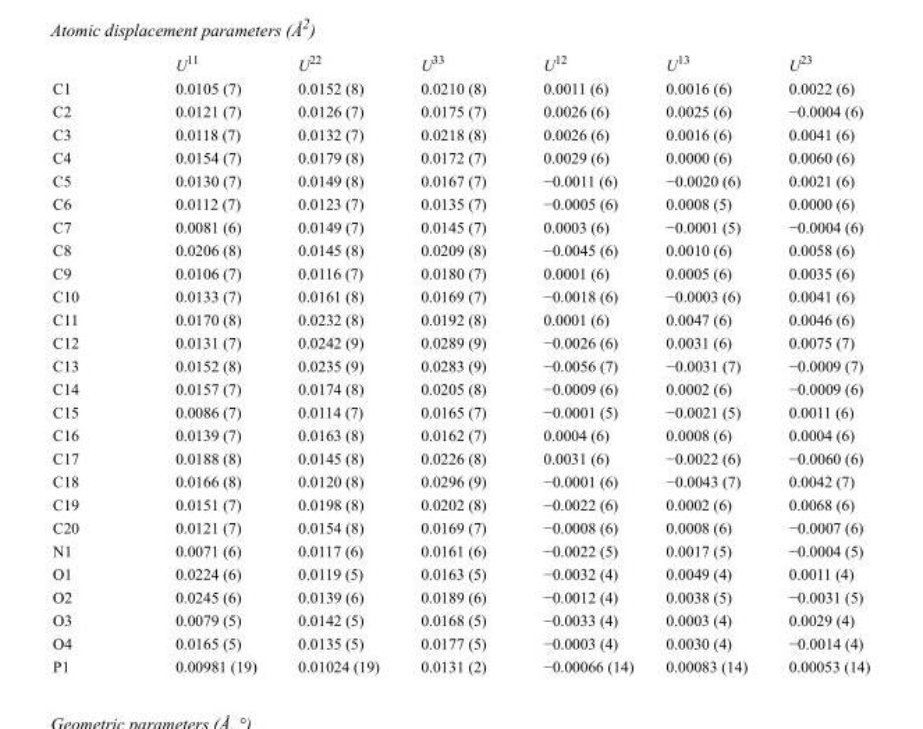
<table><thead><tr><td></td><td>U<sup>11</sup></td><td>U<sup>22</sup></td><td>U<sup>33</sup></td><td>U<sup>12</sup></td><td>U<sup>13</sup></td><td>U<sup>23</sup></td></tr></thead><tbody><tr><td>C1</td><td>0.0105 (7)</td><td>0.0152 (8)</td><td>0.0210 (8)</td><td>0.0011 (6)</td><td>0.0016 (6)</td><td>0.0022 (6)</td></tr><tr><td>C2</td><td>0.0121 (7)</td><td>0.0126 (7)</td><td>0.0175 (7)</td><td>0.0026 (6)</td><td>0.0025 (6)</td><td>−0.0004 (6)</td></tr><tr><td>C3</td><td>0.0118 (7)</td><td>0.0132 (7)</td><td>0.0218 (8)</td><td>0.0026 (6)</td><td>0.0016 (6)</td><td>0.0041 (6)</td></tr><tr><td>C4</td><td>0.0154 (7)</td><td>0.0179 (8)</td><td>0.0172 (7)</td><td>0.0029 (6)</td><td>0.0000 (6)</td><td>0.0060 (6)</td></tr><tr><td>C5</td><td>0.0130 (7)</td><td>0.0149 (8)</td><td>0.0167 (7)</td><td>−0.0011 (6)</td><td>−0.0020 (6)</td><td>0.0021 (6)</td></tr><tr><td>C6</td><td>0.0112 (7)</td><td>0.0123 (7)</td><td>0.0135 (7)</td><td>−0.0005 (6)</td><td>0.0008 (5)</td><td>0.0000 (6)</td></tr><tr><td>C7</td><td>0.0081 (6)</td><td>0.0149 (7)</td><td>0.0145 (7)</td><td>0.0003 (6)</td><td>−0.0001 (5)</td><td>−0.0004 (6)</td></tr><tr><td>C8</td><td>0.0206 (8)</td><td>0.0145 (8)</td><td>0.0209 (8)</td><td>−0.0045 (6)</td><td>0.0010 (6)</td><td>0.0058 (6)</td></tr><tr><td>C9</td><td>0.0106 (7)</td><td>0.0116 (7)</td><td>0.0180 (7)</td><td>0.0001 (6)</td><td>0.0005 (6)</td><td>0.0035 (6)</td></tr><tr><td>C10</td><td>0.0133 (7)</td><td>0.0161 (8)</td><td>0.0169 (7)</td><td>−0.0018 (6)</td><td>−0.0003 (6)</td><td>0.0041 (6)</td></tr><tr><td>C11</td><td>0.0170 (8)</td><td>0.0232 (8)</td><td>0.0192 (8)</td><td>0.0001 (6)</td><td>0.0047 (6)</td><td>0.0046 (6)</td></tr><tr><td>C12</td><td>0.0131 (7)</td><td>0.0242 (9)</td><td>0.0289 (9)</td><td>−0.0026 (6)</td><td>0.0031 (6)</td><td>0.0075 (7)</td></tr><tr><td>C13</td><td>0.0152 (8)</td><td>0.0235 (9)</td><td>0.0283 (9)</td><td>−0.0056 (7)</td><td>−0.0031 (7)</td><td>−0.0009 (7)</td></tr><tr><td>C14</td><td>0.0157 (7)</td><td>0.0174 (8)</td><td>0.0205 (8)</td><td>−0.0009 (6)</td><td>0.0002 (6)</td><td>−0.0009 (6)</td></tr><tr><td>C15</td><td>0.0086 (7)</td><td>0.0114 (7)</td><td>0.0165 (7)</td><td>−0.0001 (5)</td><td>−0.0021 (5)</td><td>0.0011 (6)</td></tr><tr><td>C16</td><td>0.0139 (7)</td><td>0.0163 (8)</td><td>0.0162 (7)</td><td>0.0004 (6)</td><td>0.0008 (6)</td><td>0.0004 (6)</td></tr><tr><td>C17</td><td>0.0188 (8)</td><td>0.0145 (8)</td><td>0.0226 (8)</td><td>0.0031 (6)</td><td>−0.0022 (6)</td><td>−0.0060 (6)</td></tr><tr><td>C18</td><td>0.0166 (8)</td><td>0.0120 (8)</td><td>0.0296 (9)</td><td>−0.0001 (6)</td><td>−0.0043 (7)</td><td>0.0042 (7)</td></tr><tr><td>C19</td><td>0.0151 (7)</td><td>0.0198 (8)</td><td>0.0202 (8)</td><td>−0.0022 (6)</td><td>0.0002 (6)</td><td>0.0068 (6)</td></tr><tr><td>C20</td><td>0.0121 (7)</td><td>0.0154 (8)</td><td>0.0169 (7)</td><td>−0.0008 (6)</td><td>0.0008 (6)</td><td>−0.0007 (6)</td></tr><tr><td>N1</td><td>0.0071 (6)</td><td>0.0117 (6)</td><td>0.0161 (6)</td><td>−0.0022 (5)</td><td>0.0017 (5)</td><td>−0.0004 (5)</td></tr><tr><td>O1</td><td>0.0224 (6)</td><td>0.0119 (5)</td><td>0.0163 (5)</td><td>−0.0032 (4)</td><td>0.0049 (4)</td><td>0.0011 (4)</td></tr><tr><td>O2</td><td>0.0245 (6)</td><td>0.0139 (6)</td><td>0.0189 (6)</td><td>−0.0012 (4)</td><td>0.0038 (5)</td><td>−0.0031 (5)</td></tr><tr><td>O3</td><td>0.0079 (5)</td><td>0.0142 (5)</td><td>0.0168 (5)</td><td>−0.0033 (4)</td><td>0.0003 (4)</td><td>0.0029 (4)</td></tr><tr><td>O4</td><td>0.0165 (5)</td><td>0.0135 (5)</td><td>0.0177 (5)</td><td>−0.0003 (4)</td><td>0.0030 (4)</td><td>−0.0014 (4)</td></tr><tr><td>P1</td><td>0.00981 (19)</td><td>0.01024 (19)</td><td>0.0131 (2)</td><td>−0.00066 (14)</td><td>0.00083 (14)</td><td>0.00053 (14)</td></tr></tbody></table>